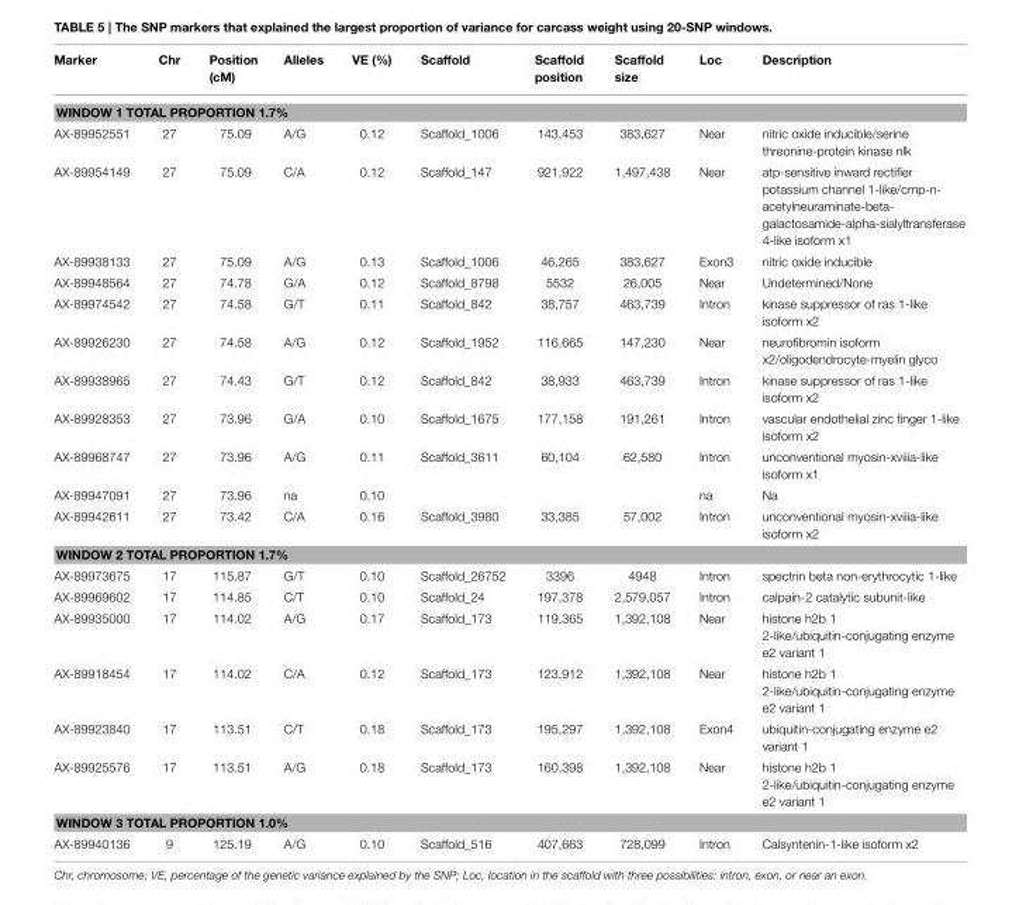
<table><thead><tr><td>Marker</td><td>Chr</td><td>Position (cM)</td><td>Alleles</td><td>VE (%)</td><td>Scaffold</td><td>Scaffold position</td><td>Scaffold size</td><td>Loc</td><td>Description</td></tr></thead><tbody><tr><td colspan="10">WINDOW 1 TOTAL PROPORTION 1.7%</td></tr><tr><td>AX-89952551</td><td>27</td><td>75.09</td><td>A/G</td><td>0.12</td><td>Scaffold_1006</td><td>143,453</td><td>383,627</td><td>Near</td><td>nitric oxide inducible/serine threonine-protein kinase nlk</td></tr><tr><td>AX-89954149</td><td>27</td><td>75.09</td><td>C/A</td><td>0.12</td><td>Scaffold_147</td><td>921,922</td><td>1,497,438</td><td>Near</td><td>atp-sensitive inward rectifier potassium channel 1-like/cmp-n- acetylneuraminate-beta- galactosamide-alpha-sialyltransferase 4-like isoform x1</td></tr><tr><td>AX-89938133</td><td>27</td><td>75.09</td><td>A/G</td><td>0.13</td><td>Scaffold_1006</td><td>46,265</td><td>383,627</td><td>Exon3</td><td>nitric oxide inducible</td></tr><tr><td>AX-89948564</td><td>27</td><td>74.78</td><td>G/A</td><td>0.12</td><td>Scaffold_8798</td><td>5532</td><td>26,005</td><td>Near</td><td>Undetermined/None</td></tr><tr><td>AX-89974542</td><td>27</td><td>74.58</td><td>G/T</td><td>0.11</td><td>Scaffold_842</td><td>38,757</td><td>463,739</td><td>Intron</td><td>kinase suppressor of ras 1-like isoform x2</td></tr><tr><td>AX-89926230</td><td>27</td><td>74.58</td><td>A/G</td><td>0.12</td><td>Scaffold_1952</td><td>116,665</td><td>147,230</td><td>Near</td><td>neurofibromin isoform x2/oligodendrocyte-myelin glyco</td></tr><tr><td>AX-89938965</td><td>27</td><td>74.43</td><td>G/T</td><td>0.12</td><td>Scaffold_842</td><td>38,933</td><td>463,739</td><td>Intron</td><td>kinase suppressor of ras 1-like isoform x2</td></tr><tr><td>AX-89928353</td><td>27</td><td>73.96</td><td>G/A</td><td>0.10</td><td>Scaffold_1675</td><td>177,158</td><td>191,261</td><td>Intron</td><td>vascular endothelial zinc finger 1-like isoform x2</td></tr><tr><td>AX-89968747</td><td>27</td><td>73.96</td><td>A/G</td><td>0.11</td><td>Scaffold_3611</td><td>60,104</td><td>62,580</td><td>Intron</td><td>unconventional myosin-xviiia-like isoform x1</td></tr><tr><td>AX-89947091</td><td>27</td><td>73.96</td><td>na</td><td>0.10</td><td></td><td></td><td></td><td>na</td><td>Na</td></tr><tr><td>AX-89942611</td><td>27</td><td>73.42</td><td>C/A</td><td>0.16</td><td>Scaffold_3980</td><td>33,385</td><td>57,002</td><td>Intron</td><td>unconventional myosin-xviiia-like isoform x2</td></tr><tr><td colspan="10">WINDOW 2 TOTAL PROPORTION 1.7%</td></tr><tr><td>AX-89973675</td><td>17</td><td>115.87</td><td>G/T</td><td>0.10</td><td>Scaffold_26752</td><td>3396</td><td>4948</td><td>Intron</td><td>spectrin beta non-erythrocytic 1-like</td></tr><tr><td>AX-89969602</td><td>17</td><td>114.85</td><td>C/T</td><td>0.10</td><td>Scaffold_24</td><td>197,378</td><td>2,579,057</td><td>Intron</td><td>calpain-2 catalytic subunit-like</td></tr><tr><td>AX-89935000</td><td>17</td><td>114.02</td><td>A/G</td><td>0.17</td><td>Scaffold_173</td><td>119,365</td><td>1,392,108</td><td>Near</td><td>histone h2b 1 2-like/ubiquitin-conjugating enzyme e2 variant 1</td></tr><tr><td>AX-89918454</td><td>17</td><td>114.02</td><td>C/A</td><td>0.12</td><td>Scaffold_173</td><td>123,912</td><td>1,392,108</td><td>Near</td><td>histone h2b 1 2-like/ubiquitin-conjugating enzyme e2 variant 1</td></tr><tr><td>AX-89923840</td><td>17</td><td>113.51</td><td>C/T</td><td>0.18</td><td>Scaffold_173</td><td>195,297</td><td>1,392,108</td><td>Exon4</td><td>ubiquitin-conjugating enzyme e2 variant 1</td></tr><tr><td>AX-89925576</td><td>17</td><td>113.51</td><td>A/G</td><td>0.18</td><td>Scaffold_173</td><td>160,398</td><td>1,392,108</td><td>Near</td><td>histone h2b 1 2-like/ubiquitin-conjugating enzyme e2 variant 1</td></tr><tr><td colspan="10">WINDOW 3 TOTAL PROPORTION 1.0%</td></tr><tr><td>AX-89940136</td><td>9</td><td>125.19</td><td>A/G</td><td>0.10</td><td>Scaffold_516</td><td>407,663</td><td>728,099</td><td>Intron</td><td>Calsyntenin-1-like isoform x2</td></tr></tbody></table>